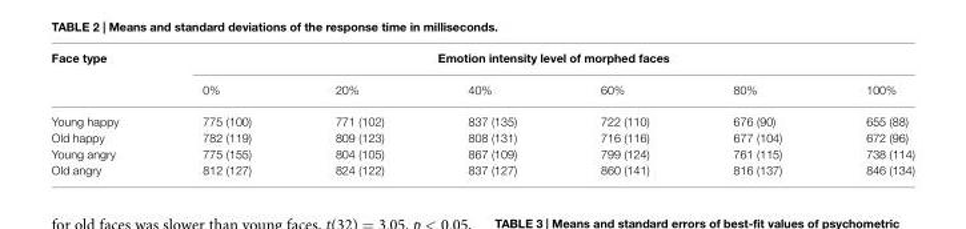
<table><thead><tr><td rowspan="2">Face type</td><td colspan="6">Emotion intensity level of morphed faces</td></tr><tr><td>0%</td><td>20%</td><td>40%</td><td>60%</td><td>80%</td><td>100%</td></tr></thead><tbody><tr><td>Young happy</td><td>775 (100)</td><td>771 (102)</td><td>837 (135)</td><td>722 (110)</td><td>676 (90)</td><td>655 (88)</td></tr><tr><td>Old happy</td><td>782 (119)</td><td>809 (123)</td><td>808 (131)</td><td>716 (116)</td><td>677 (104)</td><td>672 (96)</td></tr><tr><td>Young angry</td><td>775 (155)</td><td>804 (105)</td><td>867 (109)</td><td>799 (124)</td><td>761 (115)</td><td>738 (114)</td></tr><tr><td>Old angry</td><td>812 (127)</td><td>824 (122)</td><td>837 (127)</td><td>860 (141)</td><td>816 (137)</td><td>846 (134)</td></tr></tbody></table>